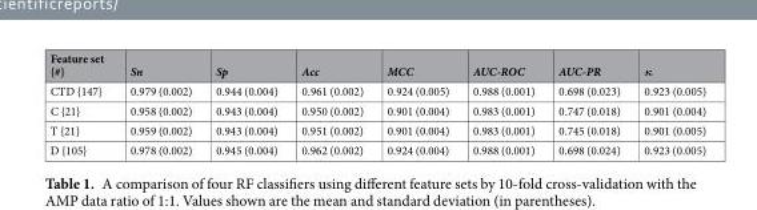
<table><thead><tr><td>Feature set {#}</td><td>Sn</td><td>Sp</td><td>Acc</td><td>MCC</td><td>AUC-ROC</td><td>AUC-PR</td><td>κ</td></tr></thead><tbody><tr><td>CTD {147}</td><td>0.979 (0.002)</td><td>0.944 (0.004)</td><td>0.961 (0.002)</td><td>0.924 (0.005)</td><td>0.988 (0.001)</td><td>0.698 (0.023)</td><td>0.923 (0.005)</td></tr><tr><td>C {21}</td><td>0.958 (0.002)</td><td>0.943 (0.004)</td><td>0.950 (0.002)</td><td>0.901 (0.004)</td><td>0.983 (0.001)</td><td>0.747 (0.018)</td><td>0.901 (0.004)</td></tr><tr><td>T {21}</td><td>0.959 (0.002)</td><td>0.943 (0.004)</td><td>0.951 (0.002)</td><td>0.901 (0.004)</td><td>0.983 (0.001)</td><td>0.745 (0.018)</td><td>0.901 (0.005)</td></tr><tr><td>D {105}</td><td>0.978 (0.002)</td><td>0.945 (0.004)</td><td>0.962 (0.002)</td><td>0.924 (0.004)</td><td>0.988 (0.001)</td><td>0.698 (0.024)</td><td>0.923 (0.005)</td></tr></tbody></table>